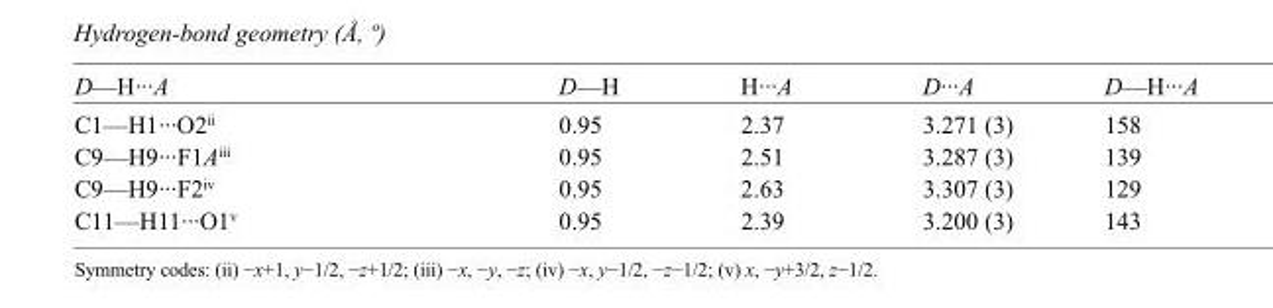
<table><tbody><tr><td>D—H···A</td><td>D—H</td><td>H···A</td><td>D···A</td><td>D—H···A</td></tr><tr><td>C1—H1···O2<sup>ii</sup></td><td>0.95</td><td>2.37</td><td>3.271 (3)</td><td>158</td></tr><tr><td>C9—H9···F1A<sup>iii</sup></td><td>0.95</td><td>2.51</td><td>3.287 (3)</td><td>139</td></tr><tr><td>C9—H9···F2<sup>iv</sup></td><td>0.95</td><td>2.63</td><td>3.307 (3)</td><td>129</td></tr><tr><td>C11—H11···O1<sup>v</sup></td><td>0.95</td><td>2.39</td><td>3.200 (3)</td><td>143</td></tr></tbody></table>